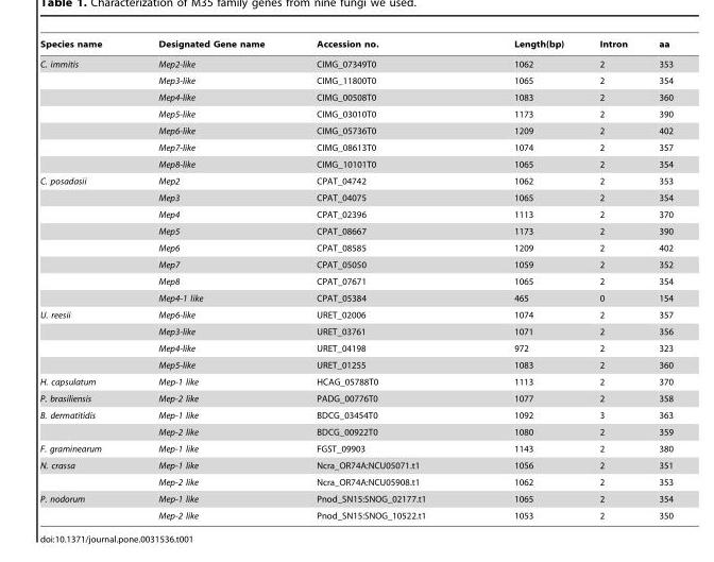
<table><thead><tr><td>Species name</td><td>Designated Gene name</td><td>Accession no.</td><td>Length(bp)</td><td>Intron</td><td>aa</td></tr></thead><tbody><tr><td rowspan="7">C. immitis</td><td>Mep2-like</td><td>CIMG_07349T0</td><td>1062</td><td>2</td><td>353</td></tr><tr><td>Mep3-like</td><td>CIMG_11800T0</td><td>1065</td><td>2</td><td>354</td></tr><tr><td>Mep4-like</td><td>CIMG_00508T0</td><td>1083</td><td>2</td><td>360</td></tr><tr><td>Mep5-like</td><td>CIMG_03010T0</td><td>1173</td><td>2</td><td>390</td></tr><tr><td>Mep6-like</td><td>CIMG_05736T0</td><td>1209</td><td>2</td><td>402</td></tr><tr><td>Mep7-like</td><td>CIMG_08613T0</td><td>1074</td><td>2</td><td>357</td></tr><tr><td>Mep8-like</td><td>CIMG_10101T0</td><td>1065</td><td>2</td><td>354</td></tr><tr><td rowspan="8">C. posadasii</td><td>Mep2</td><td>CPAT_04742</td><td>1062</td><td>2</td><td>353</td></tr><tr><td>Mep3</td><td>CPAT_04075</td><td>1065</td><td>2</td><td>354</td></tr><tr><td>Mep4</td><td>CPAT_02396</td><td>1113</td><td>2</td><td>370</td></tr><tr><td>Mep5</td><td>CPAT_08667</td><td>1173</td><td>2</td><td>390</td></tr><tr><td>Mep6</td><td>CPAT_08585</td><td>1209</td><td>2</td><td>402</td></tr><tr><td>Mep7</td><td>CPAT_05050</td><td>1059</td><td>2</td><td>352</td></tr><tr><td>Mep8</td><td>CPAT_07671</td><td>1065</td><td>2</td><td>354</td></tr><tr><td>Mep4-1 like</td><td>CPAT_05384</td><td>465</td><td>0</td><td>154</td></tr><tr><td rowspan="4">U. reesii</td><td>Mep6-like</td><td>URET_02006</td><td>1074</td><td>2</td><td>357</td></tr><tr><td>Mep3-like</td><td>URET_03761</td><td>1071</td><td>2</td><td>356</td></tr><tr><td>Mep4-like</td><td>URET_04198</td><td>972</td><td>2</td><td>323</td></tr><tr><td>Mep5-like</td><td>URET_01255</td><td>1083</td><td>2</td><td>360</td></tr><tr><td>H. capsulatum</td><td>Mep-1 like</td><td>HCAG_05788T0</td><td>1113</td><td>2</td><td>370</td></tr><tr><td>P. brasiliensis</td><td>Mep-2 like</td><td>PADG_00776T0</td><td>1077</td><td>2</td><td>358</td></tr><tr><td rowspan="2">B. dermatitidis</td><td>Mep-1 like</td><td>BDCG_03454T0</td><td>1092</td><td>3</td><td>363</td></tr><tr><td>Mep-2 like</td><td>BDCG_00922T0</td><td>1080</td><td>2</td><td>359</td></tr><tr><td>F. graminearum</td><td>Mep-1 like</td><td>FGST_09903</td><td>1143</td><td>2</td><td>380</td></tr><tr><td rowspan="2">N. crassa</td><td>Mep-1 like</td><td>Ncra_OR74A:NCU05071.t1</td><td>1056</td><td>2</td><td>351</td></tr><tr><td>Mep-2 like</td><td>Ncra_OR74A:NCU05908.t1</td><td>1062</td><td>2</td><td>353</td></tr><tr><td rowspan="2">P. nodorum</td><td>Mep-1 like</td><td>Pnod_SN15:SNOG_02177.t1</td><td>1065</td><td>2</td><td>354</td></tr><tr><td>Mep-2 like</td><td>Pnod_SN15:SNOG_10522.t1</td><td>1053</td><td>2</td><td>350</td></tr></tbody></table>